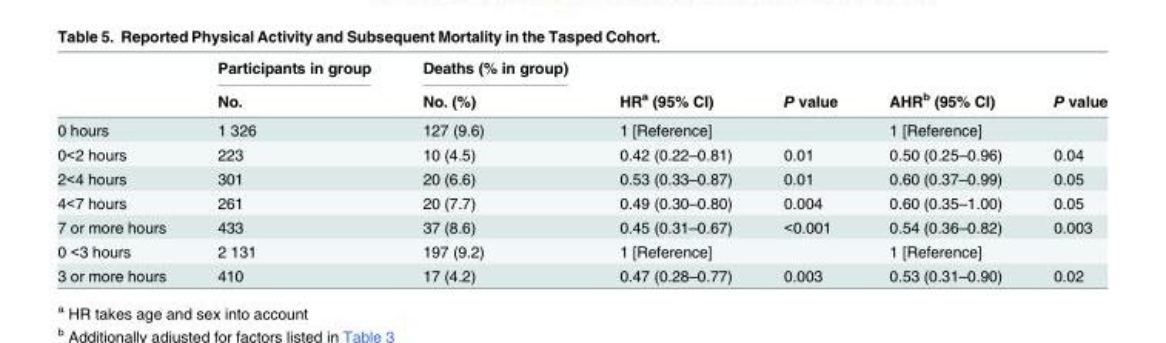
<table><thead><tr><td rowspan="2"></td><td rowspan="2">Participants in group No.</td><td rowspan="2">Deaths (% in group) No. (%)</td><td rowspan="2">HR<sup>a</sup> (95% CI)</td><td rowspan="2">P value</td><td rowspan="2">AHR<sup>b</sup> (95% CI)</td><td rowspan="2">P value</td></tr><tr></tr></thead><tbody><tr><td>0 hours</td><td>1 326</td><td>127 (9.6)</td><td>1 [Reference]</td><td></td><td>1 [Reference]</td><td></td></tr><tr><td>0&lt;2 hours</td><td>223</td><td>10 (4.5)</td><td>0.42 (0.22–0.81)</td><td>0.01</td><td>0.50 (0.25–0.96)</td><td>0.04</td></tr><tr><td>2&lt;4 hours</td><td>301</td><td>20 (6.6)</td><td>0.53 (0.33–0.87)</td><td>0.01</td><td>0.60 (0.37–0.99)</td><td>0.05</td></tr><tr><td>4&lt;7 hours</td><td>261</td><td>20 (7.7)</td><td>0.49 (0.30–0.80)</td><td>0.004</td><td>0.60 (0.35–1.00)</td><td>0.05</td></tr><tr><td>7 or more hours</td><td>433</td><td>37 (8.6)</td><td>0.45 (0.31–0.67)</td><td>&lt;0.001</td><td>0.54 (0.36–0.82)</td><td>0.003</td></tr><tr><td>0 &lt;3 hours</td><td>2 131</td><td>197 (9.2)</td><td>1 [Reference]</td><td></td><td>1 [Reference]</td><td></td></tr><tr><td>3 or more hours</td><td>410</td><td>17 (4.2)</td><td>0.47 (0.28–0.77)</td><td>0.003</td><td>0.53 (0.31–0.90)</td><td>0.02</td></tr></tbody></table>